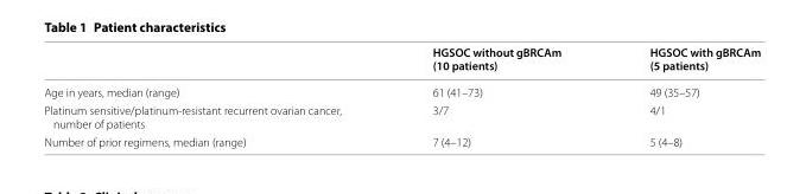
<table><thead><tr><td></td><td>HGSOC without gBRCAm (10 patients)</td><td>HGSOC with gBRCAm (5 patients)</td></tr></thead><tbody><tr><td>Age in years, median (range)</td><td>61 (41–73)</td><td>49 (35–57)</td></tr><tr><td>Platinum sensitive/platinum‑resistant recurrent ovarian cancer, number of patients</td><td>3/7</td><td>4/1</td></tr><tr><td>Number of prior regimens, median (range)</td><td>7 (4–12)</td><td>5 (4–8)</td></tr></tbody></table>